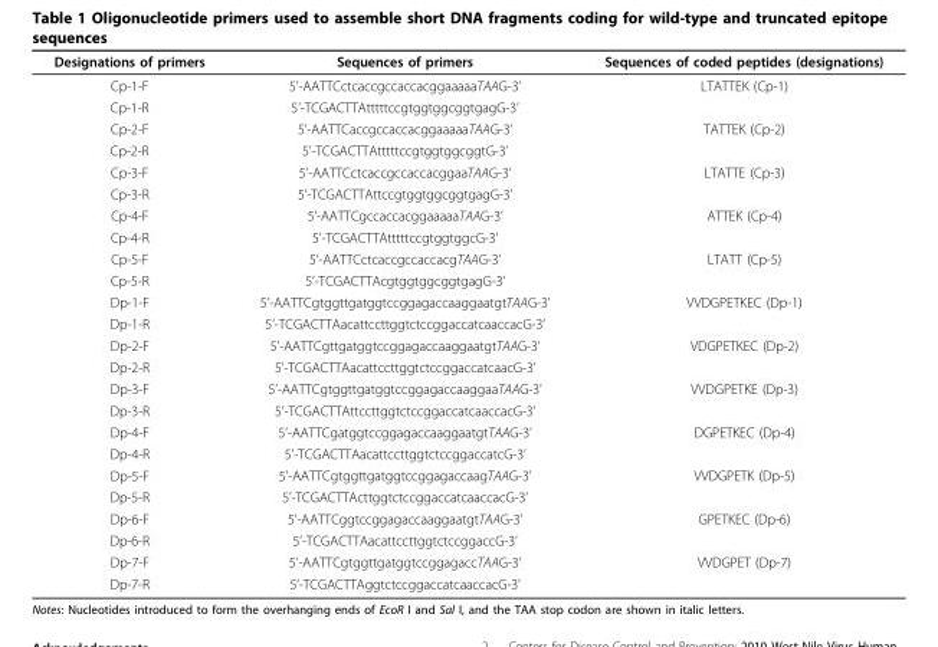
<table><thead><tr><td>Designations of primers</td><td>Sequences of primers</td><td>Sequences of coded peptides (designations)</td></tr></thead><tbody><tr><td>Cp-1-F</td><td>5’-AATTCctcaccgccaccacggaaaaaTAAG-3’</td><td>LTATTEK (Cp-1)</td></tr><tr><td>Cp-1-R</td><td>5’-TCGACTTAtttttccgtggtggcggtgagG-3’</td><td></td></tr><tr><td>Cp-2-F</td><td>5’-AATTCaccgccaccacggaaaaaTAAG-3’</td><td>TATTEK (Cp-2)</td></tr><tr><td>Cp-2-R</td><td>5’-TCGACTTAtttttccgtggtggcggtG-3’</td><td></td></tr><tr><td>Cp-3-F</td><td>5’-AATTCctcaccgccaccacggaaTAAG-3’</td><td>LTATTE (Cp-3)</td></tr><tr><td>Cp-3-R</td><td>5’-TCGACTTAttccgtggtggcggtgagG-3’</td><td></td></tr><tr><td>Cp-4-F</td><td>5’-AATTCgccaccacggaaaaaTAAG-3’</td><td>ATTEK (Cp-4)</td></tr><tr><td>Cp-4-R</td><td>5’-TCGACTTAtttttccgtggtggcG-3’</td><td></td></tr><tr><td>Cp-5-F</td><td>5’-AATTCctcaccgccaccacgTAAG-3’</td><td>LTATT (Cp-5)</td></tr><tr><td>Cp-5-R</td><td>5’-TCGACTTAcgtggtggcggtgagG-3’</td><td></td></tr><tr><td>Dp-1-F</td><td>5’-AATTCgtggttgatggtccggagaccaaggaatgtTAAG-3’</td><td>VVDGPETKEC (Dp-1)</td></tr><tr><td>Dp-1-R</td><td>5’-TCGACTTAacattccttggtctccggaccatcaaccacG-3’</td><td></td></tr><tr><td>Dp-2-F</td><td>5’-AATTCgttgatggtccggagaccaaggaatgtTAAG-3’</td><td>VDGPETKEC (Dp-2)</td></tr><tr><td>Dp-2-R</td><td>5’-TCGACTTAacattccttggtctccggaccatcaacG-3’</td><td></td></tr><tr><td>Dp-3-F</td><td>5’-AATTCgtggttgatggtccggagaccaaggaaTAAG-3’</td><td>VVDGPETKE (Dp-3)</td></tr><tr><td>Dp-3-R</td><td>5’-TCGACTTAttccttggtctccggaccatcaaccacG-3’</td><td></td></tr><tr><td>Dp-4-F</td><td>5’-AATTCgatggtccggagaccaaggaatgtTAAG-3’</td><td>DGPETKEC (Dp-4)</td></tr><tr><td>Dp-4-R</td><td>5’-TCGACTTAacattccttggtctccggaccatcG-3’</td><td></td></tr><tr><td>Dp-5-F</td><td>5’-AATTCgtggttgatggtccggagaccaagTAAG-3’</td><td>VVDGPETK (Dp-5)</td></tr><tr><td>Dp-5-R</td><td>5’-TCGACTTActtggtctccggaccatcaaccacG-3’</td><td></td></tr><tr><td>Dp-6-F</td><td>5’-AATTCggtccggagaccaaggaatgtTAAG-3’</td><td>GPETKEC (Dp-6)</td></tr><tr><td>Dp-6-R</td><td>5’-TCGACTTAacattccttggtctccggaccG-3’</td><td></td></tr><tr><td>Dp-7-F</td><td>5’-AATTCgtggttgatggtccggagaccTAAG-3’</td><td>VVDGPET (Dp-7)</td></tr><tr><td>Dp-7-R</td><td>5’-TCGACTTAggtctccggaccatcaaccacG-3’</td><td></td></tr></tbody></table>